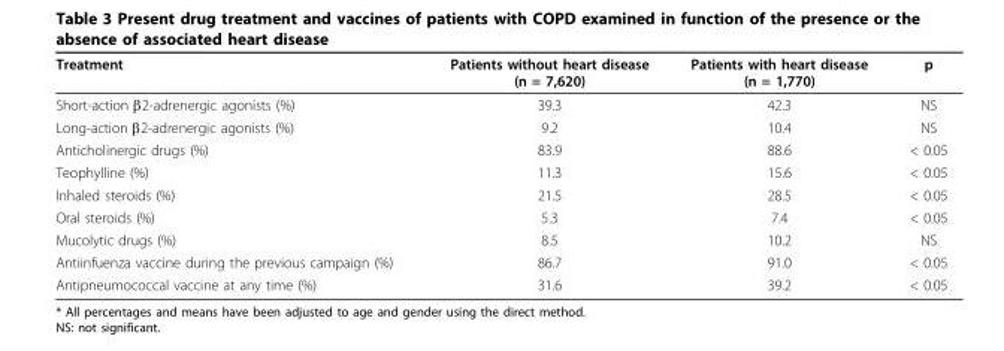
<table><thead><tr><td>Treatment</td><td>Patients without heart disease (n = 7,620)</td><td>Patients with heart disease (n = 1,770)</td><td>p</td></tr></thead><tbody><tr><td>Short-action β2-adrenergic agonists (%)</td><td>39.3</td><td>42.3</td><td>NS</td></tr><tr><td>Long-action β2-adrenergic agonists (%)</td><td>9.2</td><td>10.4</td><td>NS</td></tr><tr><td>Anticholinergic drugs (%)</td><td>83.9</td><td>88.6</td><td>&lt; 0.05</td></tr><tr><td>Teophylline (%)</td><td>11.3</td><td>15.6</td><td>&lt; 0.05</td></tr><tr><td>Inhaled steroids (%)</td><td>21.5</td><td>28.5</td><td>&lt; 0.05</td></tr><tr><td>Oral steroids (%)</td><td>5.3</td><td>7.4</td><td>&lt; 0.05</td></tr><tr><td>Mucolytic drugs (%)</td><td>8.5</td><td>10.2</td><td>NS</td></tr><tr><td>Antiinfuenza vaccine during the previous campaign (%)</td><td>86.7</td><td>91.0</td><td>&lt; 0.05</td></tr><tr><td>Antipneumococcal vaccine at any time (%)</td><td>31.6</td><td>39.2</td><td>&lt; 0.05</td></tr></tbody></table>